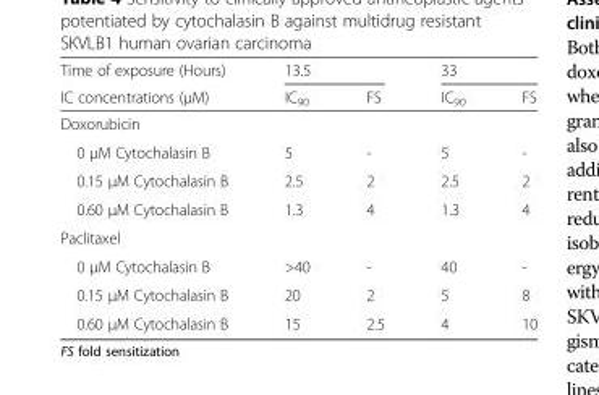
<table><thead><tr><td rowspan="2">Time of exposure (Hours) IC concentrations (μM)</td><td colspan="2">13.5</td><td colspan="2">33</td></tr><tr><td>IC<sub>90</sub></td><td>FS</td><td>IC<sub>90</sub></td><td>FS</td></tr></thead><tbody><tr><td colspan="5">Doxorubicin</td></tr><tr><td>0 μM Cytochalasin B</td><td>5</td><td>-</td><td>5</td><td>-</td></tr><tr><td>0.15 μM Cytochalasin B</td><td>2.5</td><td>2</td><td>2.5</td><td>2</td></tr><tr><td>0.60 μM Cytochalasin B</td><td>1.3</td><td>4</td><td>1.3</td><td>4</td></tr><tr><td colspan="5">Paclitaxel</td></tr><tr><td>0 μM Cytochalasin B</td><td>&gt;40</td><td>-</td><td>40</td><td>-</td></tr><tr><td>0.15 μM Cytochalasin B</td><td>20</td><td>2</td><td>5</td><td>8</td></tr><tr><td>0.60 μM Cytochalasin B</td><td>15</td><td>2.5</td><td>4</td><td>10</td></tr></tbody></table>